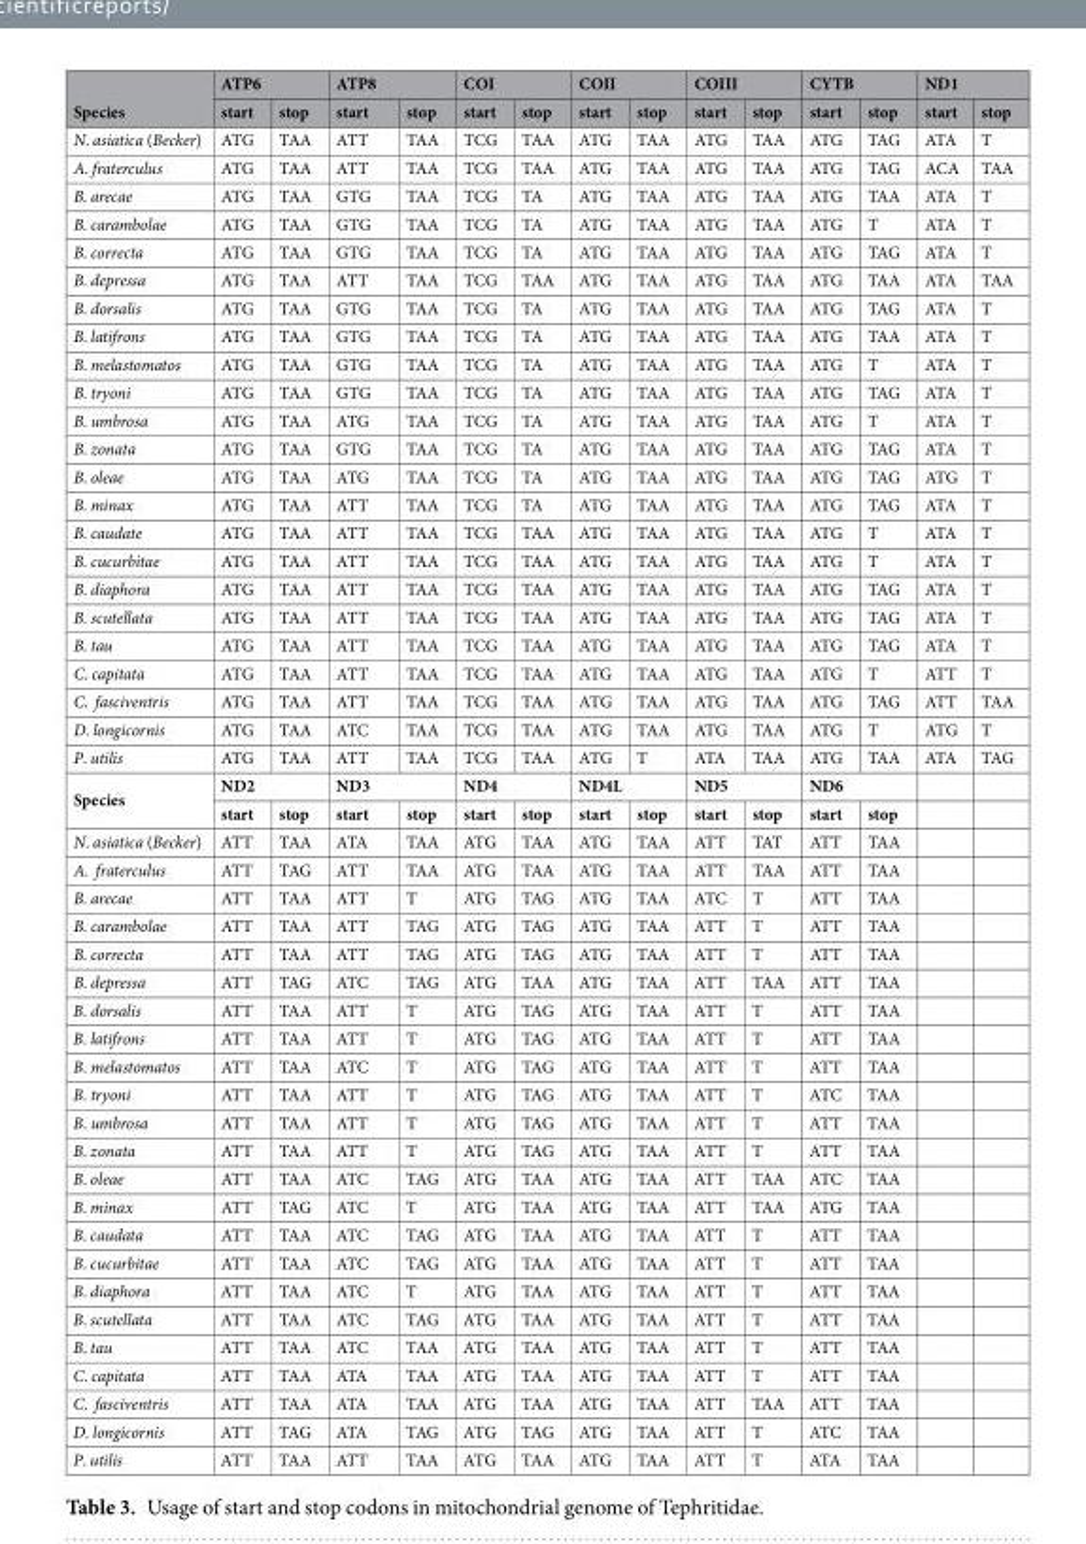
<table><thead><tr><td rowspan="2">Species</td><td colspan="2">ATP6</td><td colspan="2">ATP8</td><td colspan="2">COI</td><td colspan="2">COII</td><td colspan="2">COIII</td><td colspan="2">CYTB</td><td colspan="2">ND1</td></tr><tr><td>start</td><td>stop</td><td>start</td><td>stop</td><td>start</td><td>stop</td><td>start</td><td>stop</td><td>start</td><td>stop</td><td>start</td><td>stop</td><td>start</td><td>stop</td></tr></thead><tbody><tr><td>N. asiatica (Becker)</td><td>ATG</td><td>TAA</td><td>ATT</td><td>TAA</td><td>TCG</td><td>TAA</td><td>ATG</td><td>TAA</td><td>ATG</td><td>TAA</td><td>ATG</td><td>TAG</td><td>ATA</td><td>T</td></tr><tr><td>A. fraterculus</td><td>ATG</td><td>TAA</td><td>ATT</td><td>TAA</td><td>TCG</td><td>TAA</td><td>ATG</td><td>TAA</td><td>ATG</td><td>TAA</td><td>ATG</td><td>TAG</td><td>ACA</td><td>TAA</td></tr><tr><td>B. arecae</td><td>ATG</td><td>TAA</td><td>GTG</td><td>TAA</td><td>TCG</td><td>TA</td><td>ATG</td><td>TAA</td><td>ATG</td><td>TAA</td><td>ATG</td><td>TAA</td><td>ATA</td><td>T</td></tr><tr><td>B. carambolae</td><td>ATG</td><td>TAA</td><td>GTG</td><td>TAA</td><td>TCG</td><td>TA</td><td>ATG</td><td>TAA</td><td>ATG</td><td>TAA</td><td>ATG</td><td>T</td><td>ATA</td><td>T</td></tr><tr><td>B. correcta</td><td>ATG</td><td>TAA</td><td>GTG</td><td>TAA</td><td>TCG</td><td>TA</td><td>ATG</td><td>TAA</td><td>ATG</td><td>TAA</td><td>ATG</td><td>TAG</td><td>ATA</td><td>T</td></tr><tr><td>B. depressa</td><td>ATG</td><td>TAA</td><td>ATT</td><td>TAA</td><td>TCG</td><td>TAA</td><td>ATG</td><td>TAA</td><td>ATG</td><td>TAA</td><td>ATG</td><td>TAA</td><td>ATA</td><td>TAA</td></tr><tr><td>B. dorsalis</td><td>ATG</td><td>TAA</td><td>GTG</td><td>TAA</td><td>TCG</td><td>TA</td><td>ATG</td><td>TAA</td><td>ATG</td><td>TAA</td><td>ATG</td><td>TAG</td><td>ATA</td><td>T</td></tr><tr><td>B. latifrons</td><td>ATG</td><td>TAA</td><td>GTG</td><td>TAA</td><td>TCG</td><td>TA</td><td>ATG</td><td>TAA</td><td>ATG</td><td>TAA</td><td>ATG</td><td>TAA</td><td>ATA</td><td>T</td></tr><tr><td>B. melastomatos</td><td>ATG</td><td>TAA</td><td>GTG</td><td>TAA</td><td>TCG</td><td>TA</td><td>ATG</td><td>TAA</td><td>ATG</td><td>TAA</td><td>ATG</td><td>T</td><td>ATA</td><td>T</td></tr><tr><td>B. tryoni</td><td>ATG</td><td>TAA</td><td>GTG</td><td>TAA</td><td>TCG</td><td>TA</td><td>ATG</td><td>TAA</td><td>ATG</td><td>TAA</td><td>ATG</td><td>TAG</td><td>ATA</td><td>T</td></tr><tr><td>B. umbrosa</td><td>ATG</td><td>TAA</td><td>ATG</td><td>TAA</td><td>TCG</td><td>TA</td><td>ATG</td><td>TAA</td><td>ATG</td><td>TAA</td><td>ATG</td><td>T</td><td>ATA</td><td>T</td></tr><tr><td>B. zonata</td><td>ATG</td><td>TAA</td><td>GTG</td><td>TAA</td><td>TCG</td><td>TA</td><td>ATG</td><td>TAA</td><td>ATG</td><td>TAA</td><td>ATG</td><td>TAG</td><td>ATA</td><td>T</td></tr><tr><td>B. oleae</td><td>ATG</td><td>TAA</td><td>ATG</td><td>TAA</td><td>TCG</td><td>TA</td><td>ATG</td><td>TAA</td><td>ATG</td><td>TAA</td><td>ATG</td><td>TAG</td><td>ATG</td><td>T</td></tr><tr><td>B. minax</td><td>ATG</td><td>TAA</td><td>ATT</td><td>TAA</td><td>TCG</td><td>TA</td><td>ATG</td><td>TAA</td><td>ATG</td><td>TAA</td><td>ATG</td><td>TAG</td><td>ATA</td><td>T</td></tr><tr><td>B. caudate</td><td>ATG</td><td>TAA</td><td>ATT</td><td>TAA</td><td>TCG</td><td>TAA</td><td>ATG</td><td>TAA</td><td>ATG</td><td>TAA</td><td>ATG</td><td>T</td><td>ATA</td><td>T</td></tr><tr><td>B. cucurbitae</td><td>ATG</td><td>TAA</td><td>ATT</td><td>TAA</td><td>TCG</td><td>TAA</td><td>ATG</td><td>TAA</td><td>ATG</td><td>TAA</td><td>ATG</td><td>T</td><td>ATA</td><td>T</td></tr><tr><td>B. diaphora</td><td>ATG</td><td>TAA</td><td>ATT</td><td>TAA</td><td>TCG</td><td>TAA</td><td>ATG</td><td>TAA</td><td>ATG</td><td>TAA</td><td>ATG</td><td>TAG</td><td>ATA</td><td>T</td></tr><tr><td>B. scutellata</td><td>ATG</td><td>TAA</td><td>ATT</td><td>TAA</td><td>TCG</td><td>TAA</td><td>ATG</td><td>TAA</td><td>ATG</td><td>TAA</td><td>ATG</td><td>TAG</td><td>ATA</td><td>T</td></tr><tr><td>B. tau</td><td>ATG</td><td>TAA</td><td>ATT</td><td>TAA</td><td>TCG</td><td>TAA</td><td>ATG</td><td>TAA</td><td>ATG</td><td>TAA</td><td>ATG</td><td>TAG</td><td>ATA</td><td>T</td></tr><tr><td>C. capitata</td><td>ATG</td><td>TAA</td><td>ATT</td><td>TAA</td><td>TCG</td><td>TAA</td><td>ATG</td><td>TAA</td><td>ATG</td><td>TAA</td><td>ATG</td><td>T</td><td>ATT</td><td>T</td></tr><tr><td>C. fasciventris</td><td>ATG</td><td>TAA</td><td>ATT</td><td>TAA</td><td>TCG</td><td>TAA</td><td>ATG</td><td>TAA</td><td>ATG</td><td>TAA</td><td>ATG</td><td>TAG</td><td>ATT</td><td>TAA</td></tr><tr><td>D. longicornis</td><td>ATG</td><td>TAA</td><td>ATC</td><td>TAA</td><td>TCG</td><td>TAA</td><td>ATG</td><td>TAA</td><td>ATG</td><td>TAA</td><td>ATG</td><td>T</td><td>ATG</td><td>T</td></tr><tr><td>P. utilis</td><td>ATG</td><td>TAA</td><td>ATT</td><td>TAA</td><td>TCG</td><td>TAA</td><td>ATG</td><td>T</td><td>ATA</td><td>TAA</td><td>ATG</td><td>TAA</td><td>ATA</td><td>TAG</td></tr><tr><td rowspan="2">Species</td><td colspan="2">ND2</td><td colspan="2">ND3</td><td colspan="2">ND4</td><td colspan="2">ND4L</td><td colspan="2">ND5</td><td colspan="2">ND6</td><td></td><td></td></tr><tr><td>start</td><td>stop</td><td>start</td><td>stop</td><td>start</td><td>stop</td><td>start</td><td>stop</td><td>start</td><td>stop</td><td>start</td><td>stop</td><td></td><td></td></tr><tr><td>N. asiatica (Becker)</td><td>ATT</td><td>TAA</td><td>ATA</td><td>TAA</td><td>ATG</td><td>TAA</td><td>ATG</td><td>TAA</td><td>ATT</td><td>TAT</td><td>ATT</td><td>TAA</td><td></td><td></td></tr><tr><td>A. fraterculus</td><td>ATT</td><td>TAG</td><td>ATT</td><td>TAA</td><td>ATG</td><td>TAA</td><td>ATG</td><td>TAA</td><td>ATT</td><td>TAA</td><td>ATT</td><td>TAA</td><td></td><td></td></tr><tr><td>B. arecae</td><td>ATT</td><td>TAA</td><td>ATT</td><td>T</td><td>ATG</td><td>TAG</td><td>ATG</td><td>TAA</td><td>ATC</td><td>T</td><td>ATT</td><td>TAA</td><td></td><td></td></tr><tr><td>B. carambolae</td><td>ATT</td><td>TAA</td><td>ATT</td><td>TAG</td><td>ATG</td><td>TAG</td><td>ATG</td><td>TAA</td><td>ATT</td><td>T</td><td>ATT</td><td>TAA</td><td></td><td></td></tr><tr><td>B. correcta</td><td>ATT</td><td>TAA</td><td>ATT</td><td>TAG</td><td>ATG</td><td>TAG</td><td>ATG</td><td>TAA</td><td>ATT</td><td>T</td><td>ATT</td><td>TAA</td><td></td><td></td></tr><tr><td>B. depressa</td><td>ATT</td><td>TAG</td><td>ATC</td><td>TAG</td><td>ATG</td><td>TAA</td><td>ATG</td><td>TAA</td><td>ATT</td><td>TAA</td><td>ATT</td><td>TAA</td><td></td><td></td></tr><tr><td>B. dorsalis</td><td>ATT</td><td>TAA</td><td>ATT</td><td>T</td><td>ATG</td><td>TAG</td><td>ATG</td><td>TAA</td><td>ATT</td><td>T</td><td>ATT</td><td>TAA</td><td></td><td></td></tr><tr><td>B. latifrons</td><td>ATT</td><td>TAA</td><td>ATT</td><td>T</td><td>ATG</td><td>TAG</td><td>ATG</td><td>TAA</td><td>ATT</td><td>T</td><td>ATT</td><td>TAA</td><td></td><td></td></tr><tr><td>B. melastomatos</td><td>ATT</td><td>TAA</td><td>ATC</td><td>T</td><td>ATG</td><td>TAG</td><td>ATG</td><td>TAA</td><td>ATT</td><td>T</td><td>ATT</td><td>TAA</td><td></td><td></td></tr><tr><td>B. tryoni</td><td>ATT</td><td>TAA</td><td>ATT</td><td>T</td><td>ATG</td><td>TAG</td><td>ATG</td><td>TAA</td><td>ATT</td><td>T</td><td>ATC</td><td>TAA</td><td></td><td></td></tr><tr><td>B. umbrosa</td><td>ATT</td><td>TAA</td><td>ATT</td><td>T</td><td>ATG</td><td>TAG</td><td>ATG</td><td>TAA</td><td>ATT</td><td>T</td><td>ATT</td><td>TAA</td><td></td><td></td></tr><tr><td>B. zonata</td><td>ATT</td><td>TAA</td><td>ATT</td><td>T</td><td>ATG</td><td>TAG</td><td>ATG</td><td>TAA</td><td>ATT</td><td>T</td><td>ATT</td><td>TAA</td><td></td><td></td></tr><tr><td>B. oleae</td><td>ATT</td><td>TAA</td><td>ATC</td><td>TAG</td><td>ATG</td><td>TAA</td><td>ATG</td><td>TAA</td><td>ATT</td><td>TAA</td><td>ATC</td><td>TAA</td><td></td><td></td></tr><tr><td>B. minax</td><td>ATT</td><td>TAG</td><td>ATC</td><td>T</td><td>ATG</td><td>TAA</td><td>ATG</td><td>TAA</td><td>ATT</td><td>TAA</td><td>ATG</td><td>TAA</td><td></td><td></td></tr><tr><td>B. caudata</td><td>ATT</td><td>TAA</td><td>ATC</td><td>TAG</td><td>ATG</td><td>TAA</td><td>ATG</td><td>TAA</td><td>ATT</td><td>T</td><td>ATT</td><td>TAA</td><td></td><td></td></tr><tr><td>B. cucurbitae</td><td>ATT</td><td>TAA</td><td>ATC</td><td>TAG</td><td>ATG</td><td>TAA</td><td>ATG</td><td>TAA</td><td>ATT</td><td>T</td><td>ATT</td><td>TAA</td><td></td><td></td></tr><tr><td>B. diaphora</td><td>ATT</td><td>TAA</td><td>ATC</td><td>T</td><td>ATG</td><td>TAA</td><td>ATG</td><td>TAA</td><td>ATT</td><td>T</td><td>ATT</td><td>TAA</td><td></td><td></td></tr><tr><td>B. scutellata</td><td>ATT</td><td>TAA</td><td>ATC</td><td>TAG</td><td>ATG</td><td>TAA</td><td>ATG</td><td>TAA</td><td>ATT</td><td>T</td><td>ATT</td><td>TAA</td><td></td><td></td></tr><tr><td>B. tau</td><td>ATT</td><td>TAA</td><td>ATC</td><td>TAA</td><td>ATG</td><td>TAA</td><td>ATG</td><td>TAA</td><td>ATT</td><td>T</td><td>ATT</td><td>TAA</td><td></td><td></td></tr><tr><td>C. capitata</td><td>ATT</td><td>TAA</td><td>ATA</td><td>TAA</td><td>ATG</td><td>TAA</td><td>ATG</td><td>TAA</td><td>ATT</td><td>T</td><td>ATT</td><td>TAA</td><td></td><td></td></tr><tr><td>C. fasciventris</td><td>ATT</td><td>TAA</td><td>ATA</td><td>TAA</td><td>ATG</td><td>TAA</td><td>ATG</td><td>TAA</td><td>ATT</td><td>TAA</td><td>ATT</td><td>TAA</td><td></td><td></td></tr><tr><td>D. longicornis</td><td>ATT</td><td>TAG</td><td>ATA</td><td>TAG</td><td>ATG</td><td>TAG</td><td>ATG</td><td>TAA</td><td>ATT</td><td>T</td><td>ATC</td><td>TAA</td><td></td><td></td></tr><tr><td>P. utilis</td><td>ATT</td><td>TAA</td><td>ATT</td><td>TAA</td><td>ATG</td><td>TAA</td><td>ATG</td><td>TAA</td><td>ATT</td><td>T</td><td>ATA</td><td>TAA</td><td></td><td></td></tr></tbody></table>